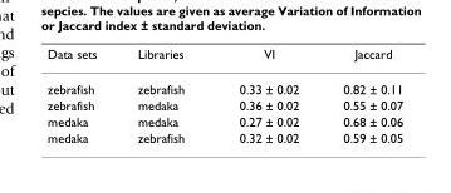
<table><thead><tr><td>Data sets</td><td>Libraries</td><td>VI</td><td>Jaccard</td></tr></thead><tbody><tr><td>zebrafish</td><td>zebrafish</td><td>0.33 ± 0.02</td><td>0.82 ± 0.11</td></tr><tr><td>zebrafish</td><td>medaka</td><td>0.36 ± 0.02</td><td>0.55 ± 0.07</td></tr><tr><td>medaka</td><td>medaka</td><td>0.27 ± 0.02</td><td>0.68 ± 0.06</td></tr><tr><td>medaka</td><td>zebrafish</td><td>0.32 ± 0.02</td><td>0.59 ± 0.05</td></tr></tbody></table>